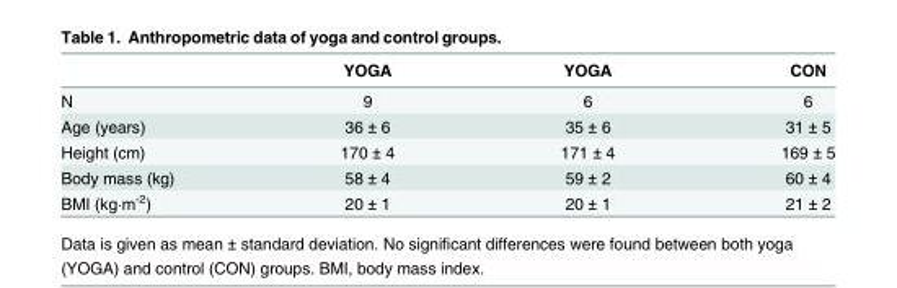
<table><thead><tr><td></td><td>YOGA</td><td>YOGA</td><td>CON</td></tr></thead><tbody><tr><td>N</td><td>9</td><td>6</td><td>6</td></tr><tr><td>Age (years)</td><td>36 ± 6</td><td>35 ± 6</td><td>31 ± 5</td></tr><tr><td>Height (cm)</td><td>170 ± 4</td><td>171 ± 4</td><td>169 ± 5</td></tr><tr><td>Body mass (kg)</td><td>58 ± 4</td><td>59 ± 2</td><td>60 ± 4</td></tr><tr><td>BMI (kg·m<sup>-2</sup>)</td><td>20 ± 1</td><td>20 ± 1</td><td>21 ± 2</td></tr></tbody></table>